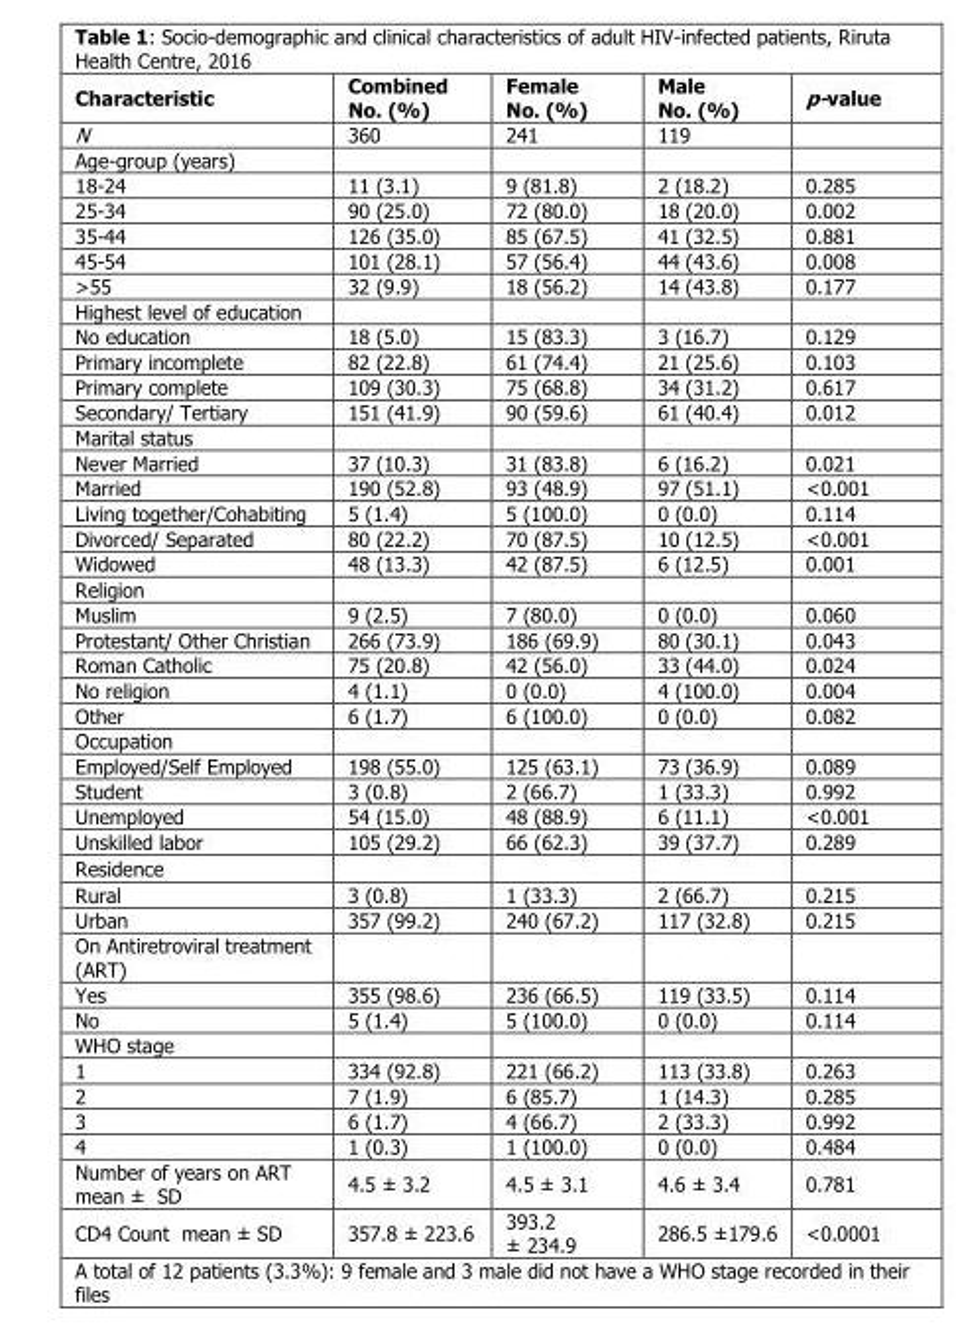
<table><thead><tr><td>Characteristic</td><td>Combined No. (%)</td><td>Female No. (%)</td><td>Male No. (%)</td><td>p-value</td></tr></thead><tbody><tr><td>N</td><td>360</td><td>241</td><td>119</td><td></td></tr><tr><td colspan="5">Age-group (years)</td></tr><tr><td>18-24</td><td>11 (3.1)</td><td>9 (81.8)</td><td>2 (18.2)</td><td>0.285</td></tr><tr><td>25-34</td><td>90 (25.0)</td><td>72 (80.0)</td><td>18 (20.0)</td><td>0.002</td></tr><tr><td>35-44</td><td>126 (35.0)</td><td>85 (67.5)</td><td>41 (32.5)</td><td>0.881</td></tr><tr><td>45-54</td><td>101 (28.1)</td><td>57 (56.4)</td><td>44 (43.6)</td><td>0.008</td></tr><tr><td>&gt;55</td><td>32 (9.9)</td><td>18 (56.2)</td><td>14 (43.8)</td><td>0.177</td></tr><tr><td colspan="5">Highest level of education</td></tr><tr><td>No education</td><td>18 (5.0)</td><td>15 (83.3)</td><td>3 (16.7)</td><td>0.129</td></tr><tr><td>Primary incomplete</td><td>82 (22.8)</td><td>61 (74.4)</td><td>21 (25.6)</td><td>0.103</td></tr><tr><td>Primary complete</td><td>109 (30.3)</td><td>75 (68.8)</td><td>34 (31.2)</td><td>0.617</td></tr><tr><td>Secondary/ Tertiary</td><td>151 (41.9)</td><td>90 (59.6)</td><td>61 (40.4)</td><td>0.012</td></tr><tr><td colspan="5">Marital status</td></tr><tr><td>Never Married</td><td>37 (10.3)</td><td>31 (83.8)</td><td>6 (16.2)</td><td>0.021</td></tr><tr><td>Married</td><td>190 (52.8)</td><td>93 (48.9)</td><td>97 (51.1)</td><td>&lt;0.001</td></tr><tr><td>Living together/Cohabiting</td><td>5 (1.4)</td><td>5 (100.0)</td><td>0 (0.0)</td><td>0.114</td></tr><tr><td>Divorced/ Separated</td><td>80 (22.2)</td><td>70 (87.5)</td><td>10 (12.5)</td><td>&lt;0.001</td></tr><tr><td>Widowed</td><td>48 (13.3)</td><td>42 (87.5)</td><td>6 (12.5)</td><td>0.001</td></tr><tr><td colspan="5">Religion</td></tr><tr><td>Muslim</td><td>9 (2.5)</td><td>7 (80.0)</td><td>0 (0.0)</td><td>0.060</td></tr><tr><td>Protestant/ Other Christian</td><td>266 (73.9)</td><td>186 (69.9)</td><td>80 (30.1)</td><td>0.043</td></tr><tr><td>Roman Catholic</td><td>75 (20.8)</td><td>42 (56.0)</td><td>33 (44.0)</td><td>0.024</td></tr><tr><td>No religion</td><td>4 (1.1)</td><td>0 (0.0)</td><td>4 (100.0)</td><td>0.004</td></tr><tr><td>Other</td><td>6 (1.7)</td><td>6 (100.0)</td><td>0 (0.0)</td><td>0.082</td></tr><tr><td colspan="5">Occupation</td></tr><tr><td>Employed/Self Employed</td><td>198 (55.0)</td><td>125 (63.1)</td><td>73 (36.9)</td><td>0.089</td></tr><tr><td>Student</td><td>3 (0.8)</td><td>2 (66.7)</td><td>1 (33.3)</td><td>0.992</td></tr><tr><td>Unemployed</td><td>54 (15.0)</td><td>48 (88.9)</td><td>6 (11.1)</td><td>&lt;0.001</td></tr><tr><td>Unskilled labor</td><td>105 (29.2)</td><td>66 (62.3)</td><td>39 (37.7)</td><td>0.289</td></tr><tr><td colspan="5">Residence</td></tr><tr><td>Rural</td><td>3 (0.8)</td><td>1 (33.3)</td><td>2 (66.7)</td><td>0.215</td></tr><tr><td>Urban</td><td>357 (99.2)</td><td>240 (67.2)</td><td>117 (32.8)</td><td>0.215</td></tr><tr><td colspan="5">On Antiretroviral treatment (ART)</td></tr><tr><td>Yes</td><td>355 (98.6)</td><td>236 (66.5)</td><td>119 (33.5)</td><td>0.114</td></tr><tr><td>No</td><td>5 (1.4)</td><td>5 (100.0)</td><td>0 (0.0)</td><td>0.114</td></tr><tr><td colspan="5">WHO stage</td></tr><tr><td>1</td><td>334 (92.8)</td><td>221 (66.2)</td><td>113 (33.8)</td><td>0.263</td></tr><tr><td>2</td><td>7 (1.9)</td><td>6 (85.7)</td><td>1 (14.3)</td><td>0.285</td></tr><tr><td>3</td><td>6 (1.7)</td><td>4 (66.7)</td><td>2 (33.3)</td><td>0.992</td></tr><tr><td>4</td><td>1 (0.3)</td><td>1 (100.0)</td><td>0 (0.0)</td><td>0.484</td></tr><tr><td>Number of years on ART mean ± SD</td><td>4.5 ± 3.2</td><td>4.5 ± 3.1</td><td>4.6 ± 3.4</td><td>0.781</td></tr><tr><td>CD4 Count mean ± SD</td><td>357.8 ± 223.6</td><td>393.2 ± 234.9</td><td>286.5 ±179.6</td><td>&lt;0.0001</td></tr></tbody></table>